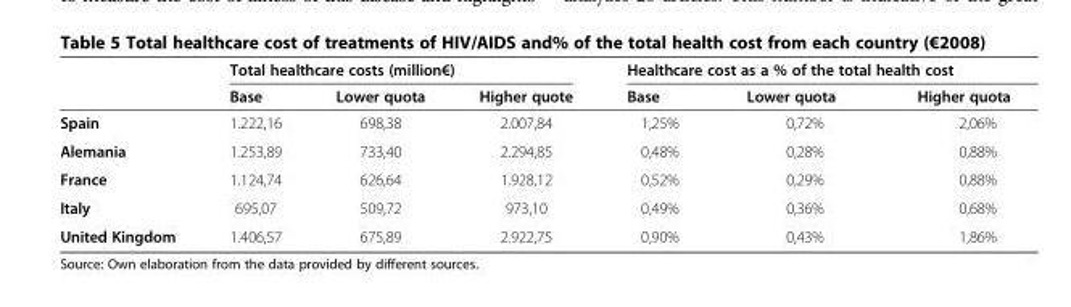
<table><thead><tr><td rowspan="2"></td><td colspan="3">Total healthcare costs (million€)</td><td colspan="3">Healthcare cost as a % of the total health cost</td></tr><tr><td>Base</td><td>Lower quota</td><td>Higher quote</td><td>Base</td><td>Lower quota</td><td>Higher quota</td></tr></thead><tbody><tr><td>Spain</td><td>1.222,16</td><td>698,38</td><td>2.007,84</td><td>1,25%</td><td>0,72%</td><td>2,06%</td></tr><tr><td>Alemania</td><td>1.253,89</td><td>733,40</td><td>2.294,85</td><td>0,48%</td><td>0,28%</td><td>0,88%</td></tr><tr><td>France</td><td>1.124,74</td><td>626,64</td><td>1.928,12</td><td>0,52%</td><td>0,29%</td><td>0,88%</td></tr><tr><td>Italy</td><td>695,07</td><td>509,72</td><td>973,10</td><td>0,49%</td><td>0,36%</td><td>0,68%</td></tr><tr><td>United Kingdom</td><td>1.406,57</td><td>675,89</td><td>2.922,75</td><td>0,90%</td><td>0,43%</td><td>1,86%</td></tr></tbody></table>